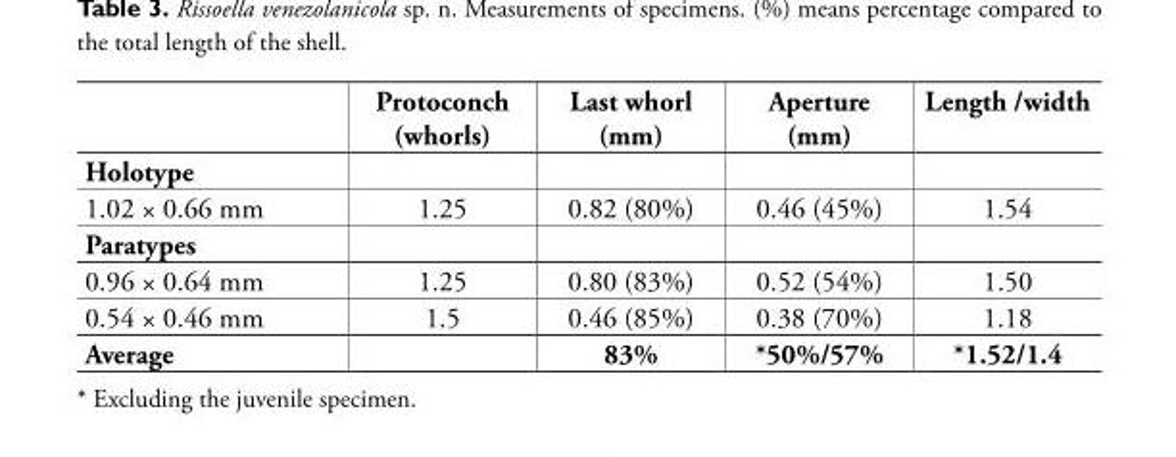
<table><thead><tr><td></td><td>Protoconch (whorls)</td><td>Last whorl (mm)</td><td>Aperture (mm)</td><td>Length /width</td></tr></thead><tbody><tr><td colspan="5">Holotype</td></tr><tr><td>1.02 × 0.66 mm</td><td>1.25</td><td>0.82 (80%)</td><td>0.46 (45%)</td><td>1.54</td></tr><tr><td colspan="5">Paratypes</td></tr><tr><td>0.96 × 0.64 mm</td><td>1.25</td><td>0.80 (83%)</td><td>0.52 (54%)</td><td>1.50</td></tr><tr><td>0.54 × 0.46 mm</td><td>1.5</td><td>0.46 (85%)</td><td>0.38 (70%)</td><td>1.18</td></tr><tr><td>Average</td><td></td><td>83%</td><td>*50%/57%</td><td>*1.52/1.4</td></tr></tbody></table>